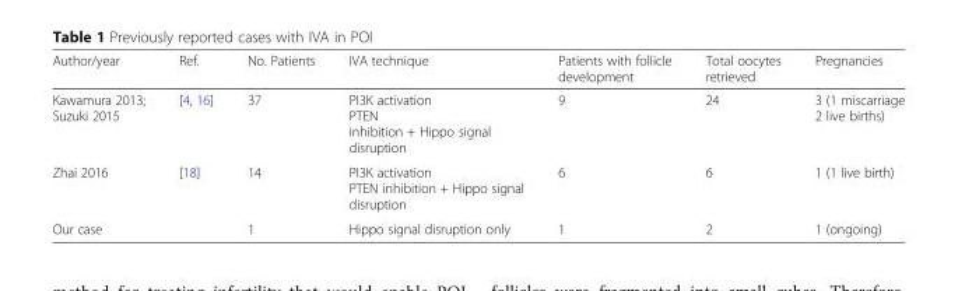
<table><thead><tr><td>Author/year</td><td>Ref.</td><td>No. Patients</td><td>IVA technique</td><td>Patients with follicle development</td><td>Total oocytes retrieved</td><td>Pregnancies</td></tr></thead><tbody><tr><td>Kawamura 2013; Suzuki 2015</td><td>[4, 16]</td><td>37</td><td>PI3K activation PTEN inhibition + Hippo signal disruption</td><td>9</td><td>24</td><td>3 (1 miscarriage 2 live births)</td></tr><tr><td>Zhai 2016</td><td>[18]</td><td>14</td><td>PI3K activation PTEN inhibition + Hippo signal disruption</td><td>6</td><td>6</td><td>1 (1 live birth)</td></tr><tr><td>Our case</td><td></td><td>1</td><td>Hippo signal disruption only</td><td>1</td><td>2</td><td>1 (ongoing)</td></tr></tbody></table>